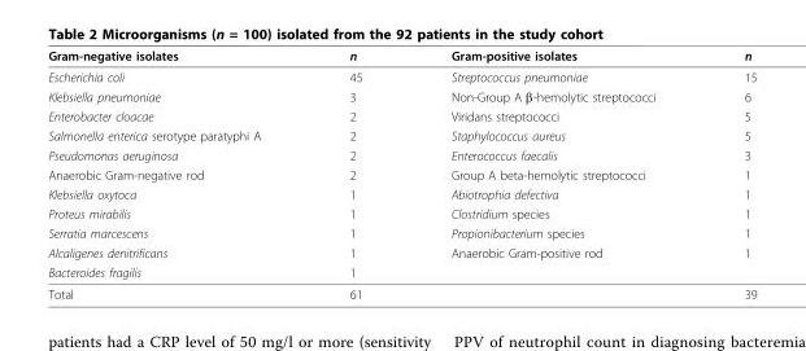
<table><thead><tr><td>Gram-negative isolates</td><td>n</td><td>Gram-positive isolates</td><td>n</td></tr></thead><tbody><tr><td>Escherichia coli</td><td>45</td><td>Streptococcus pneumoniae</td><td>15</td></tr><tr><td>Klebsiella pneumoniae</td><td>3</td><td>Non-Group A β-hemolytic streptococci</td><td>6</td></tr><tr><td>Enterobacter cloacae</td><td>2</td><td>Viridans streptococci</td><td>5</td></tr><tr><td>Salmonella enterica serotype paratyphi A</td><td>2</td><td>Staphylococcus aureus</td><td>5</td></tr><tr><td>Pseudomonas aeruginosa</td><td>2</td><td>Enterococcus faecalis</td><td>3</td></tr><tr><td>Anaerobic Gram-negative rod</td><td>2</td><td>Group A beta-hemolytic streptococci</td><td>1</td></tr><tr><td>Klebsiella oxytoca</td><td>1</td><td>Abiotrophia defectiva</td><td>1</td></tr><tr><td>Proteus mirabilis</td><td>1</td><td>Clostridium species</td><td>1</td></tr><tr><td>Serratia marcescens</td><td>1</td><td>Propionibacterium species</td><td>1</td></tr><tr><td>Alcaligenes denitrificans</td><td>1</td><td>Anaerobic Gram-positive rod</td><td>1</td></tr><tr><td>Bacteroides fragilis</td><td>1</td><td></td><td></td></tr><tr><td>Total</td><td>61</td><td></td><td>39</td></tr></tbody></table>